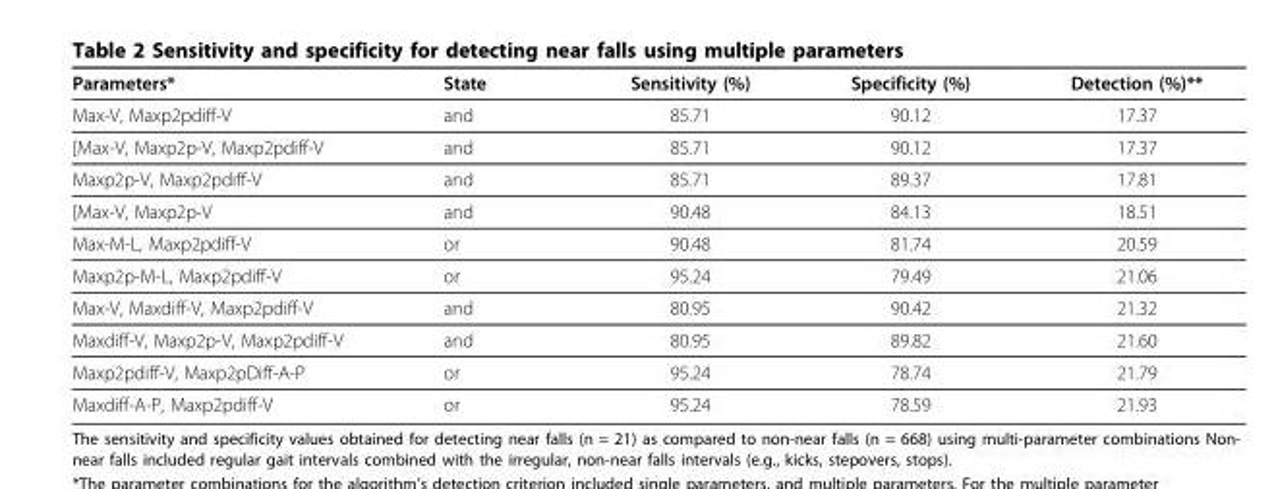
<table><thead><tr><td>Parameters*</td><td>State</td><td>Sensitivity (%)</td><td>Specificity (%)</td><td>Detection (%)**</td></tr></thead><tbody><tr><td>Max-V, Maxp2pdiff-V</td><td>and</td><td>85.71</td><td>90.12</td><td>17.37</td></tr><tr><td>[Max-V, Maxp2p-V, Maxp2pdiff-V</td><td>and</td><td>85.71</td><td>90.12</td><td>17.37</td></tr><tr><td>Maxp2p-V, Maxp2pdiff-V</td><td>and</td><td>85.71</td><td>89.37</td><td>17.81</td></tr><tr><td>[Max-V, Maxp2p-V</td><td>and</td><td>90.48</td><td>84.13</td><td>18.51</td></tr><tr><td>Max-M-L, Maxp2pdiff-V</td><td>or</td><td>90.48</td><td>81.74</td><td>20.59</td></tr><tr><td>Maxp2p-M-L, Maxp2pdiff-V</td><td>or</td><td>95.24</td><td>79.49</td><td>21.06</td></tr><tr><td>Max-V, Maxdiff-V, Maxp2pdiff-V</td><td>and</td><td>80.95</td><td>90.42</td><td>21.32</td></tr><tr><td>Maxdiff-V, Maxp2p-V, Maxp2pdiff-V</td><td>and</td><td>80.95</td><td>89.82</td><td>21.60</td></tr><tr><td>Maxp2pdiff-V, Maxp2pDiff-A-P</td><td>or</td><td>95.24</td><td>78.74</td><td>21.79</td></tr><tr><td>Maxdiff-A-P, Maxp2pdiff-V</td><td>or</td><td>95.24</td><td>78.59</td><td>21.93</td></tr></tbody></table>